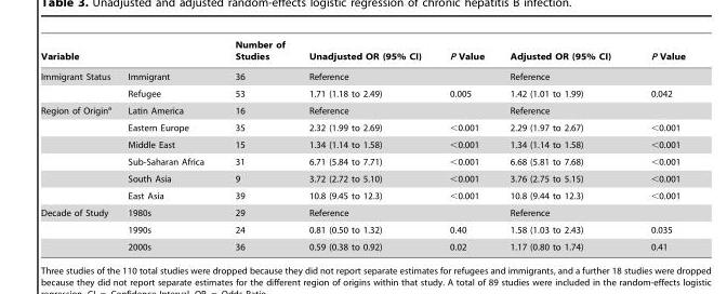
<table><thead><tr><td>Variable</td><td></td><td>Number of Studies</td><td>Unadjusted OR (95% CI)</td><td>P Value</td><td>Adjusted OR (95% CI)</td><td>P Value</td></tr></thead><tbody><tr><td rowspan="2">Immigrant Status</td><td>Immigrant</td><td>36</td><td>Reference</td><td></td><td>Reference</td><td></td></tr><tr><td>Refugee</td><td>53</td><td>1.71 (1.18 to 2.49)</td><td>0.005</td><td>1.42 (1.01 to 1.99)</td><td>0.042</td></tr><tr><td rowspan="6">Region of Origin<sup>a</sup></td><td>Latin America</td><td>16</td><td>Reference</td><td></td><td>Reference</td><td></td></tr><tr><td>Eastern Europe</td><td>35</td><td>2.32 (1.99 to 2.69)</td><td>&lt;0.001</td><td>2.29 (1.97 to 2.67)</td><td>&lt;0.001</td></tr><tr><td>Middle East</td><td>15</td><td>1.34 (1.14 to 1.58)</td><td>&lt;0.001</td><td>1.34 (1.14 to 1.58)</td><td>&lt;0.001</td></tr><tr><td>Sub-Saharan Africa</td><td>31</td><td>6.71 (5.84 to 7.71)</td><td>&lt;0.001</td><td>6.68 (5.81 to 7.68)</td><td>&lt;0.001</td></tr><tr><td>South Asia</td><td>9</td><td>3.72 (2.72 to 5.10)</td><td>&lt;0.001</td><td>3.76 (2.75 to 5.15)</td><td>&lt;0.001</td></tr><tr><td>East Asia</td><td>39</td><td>10.8 (9.45 to 12.3)</td><td>&lt;0.001</td><td>10.8 (9.44 to 12.3)</td><td>&lt;0.001</td></tr><tr><td rowspan="3">Decade of Study</td><td>1980s</td><td>29</td><td>Reference</td><td></td><td>Reference</td><td></td></tr><tr><td>1990s</td><td>24</td><td>0.81 (0.50 to 1.32)</td><td>0.40</td><td>1.58 (1.03 to 2.43)</td><td>0.035</td></tr><tr><td>2000s</td><td>36</td><td>0.59 (0.38 to 0.92)</td><td>0.02</td><td>1.17 (0.80 to 1.74)</td><td>0.41</td></tr></tbody></table>